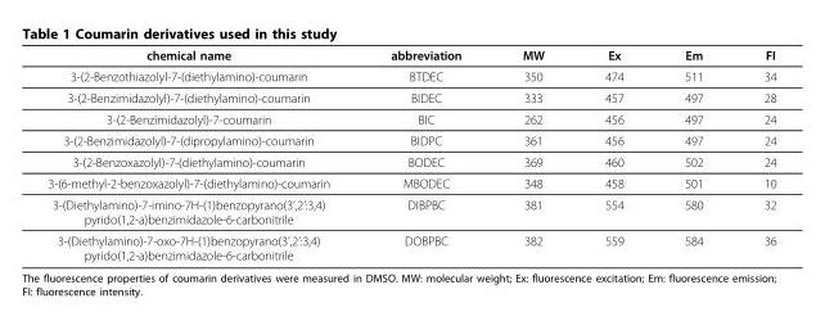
<table><thead><tr><td>chemical name</td><td>abbreviation</td><td>MW</td><td>Ex</td><td>Em</td><td>FI</td></tr></thead><tbody><tr><td>3-(2-Benzothiazolyl-7-(diethylamino)-coumarin</td><td>BTDEC</td><td>350</td><td>474</td><td>511</td><td>34</td></tr><tr><td>3-(2-Benzimidazolyl)-7-(diethylamino)-coumarin</td><td>BIDEC</td><td>333</td><td>457</td><td>497</td><td>28</td></tr><tr><td>3-(2-Benzimidazolyl)-7-coumarin</td><td>BIC</td><td>262</td><td>456</td><td>497</td><td>24</td></tr><tr><td>3-(2-Benzimidazolyl)-7-(dipropylamino)-coumarin</td><td>BIDPC</td><td>361</td><td>456</td><td>497</td><td>24</td></tr><tr><td>3-(2-Benzoxazolyl)-7-(diethylamino)-coumarin</td><td>BODEC</td><td>369</td><td>460</td><td>502</td><td>24</td></tr><tr><td>3-(6-methyl-2-benzoxazolyl)-7-(diethylamino)-coumarin</td><td>MBODEC</td><td>348</td><td>458</td><td>501</td><td>10</td></tr><tr><td>3-(Diethylamino)-7-imino-7H-(1)benzopyrano(3’,2’:3,4) pyrido(1,2-a)benzimidazole-6-carbonitrile</td><td>DIBPBC</td><td>381</td><td>554</td><td>580</td><td>32</td></tr><tr><td>3-(Diethylamino)-7-oxo-7H-(1)benzopyrano(3’,2’:3,4) pyrido(1,2-a)benzimidazole-6-carbonitrile</td><td>DOBPBC</td><td>382</td><td>559</td><td>584</td><td>36</td></tr></tbody></table>